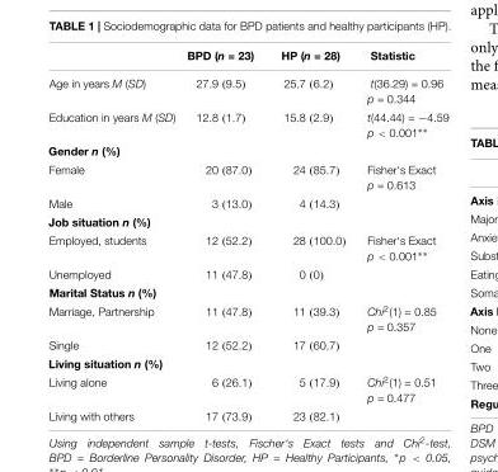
<table><thead><tr><td></td><td>BPD (n = 23)</td><td>HP (n = 28)</td><td>Statistic</td></tr></thead><tbody><tr><td>Age in years M (SD)</td><td>27.9 (9.5)</td><td>25.7 (6.2)</td><td>t(36.29) = 0.96 p = 0.344</td></tr><tr><td>Education in years M (SD)</td><td>12.8 (1.7)</td><td>15.8 (2.9)</td><td>t(44.44) = −4.59 p &lt; 0.001∗∗</td></tr><tr><td colspan="4">Gender n (%)</td></tr><tr><td>Female</td><td>20 (87.0)</td><td>24 (85.7)</td><td>Fisher‘s Exact p = 0.613</td></tr><tr><td>Male</td><td>3 (13.0)</td><td>4 (14.3)</td><td></td></tr><tr><td colspan="4">Job situation n (%)</td></tr><tr><td>Employed, students</td><td>12 (52.2)</td><td>28 (100.0)</td><td>Fisher‘s Exact p &lt; 0.001∗∗</td></tr><tr><td>Unemployed</td><td>11 (47.8)</td><td>0 (0)</td><td></td></tr><tr><td colspan="4">Marital Status n (%)</td></tr><tr><td>Marriage, Partnership</td><td>11 (47.8)</td><td>11 (39.3)</td><td>Chi<sup>2</sup>(1) = 0.85 p = 0.357</td></tr><tr><td>Single</td><td>12 (52.2)</td><td>17 (60.7)</td><td></td></tr><tr><td colspan="4">Living situation n (%)</td></tr><tr><td>Living alone</td><td>6 (26.1)</td><td>5 (17.9)</td><td>Chi<sup>2</sup>(1) = 0.51 p = 0.477</td></tr><tr><td>Living with others</td><td>17 (73.9)</td><td>23 (82.1)</td><td></td></tr></tbody></table>